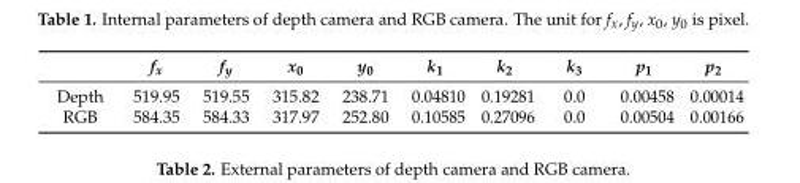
<table><thead><tr><td></td><td>f<sub>x</sub></td><td>f<sub>y</sub></td><td>x<sub>0</sub></td><td>y<sub>0</sub></td><td>k<sub>1</sub></td><td>k<sub>2</sub></td><td>k<sub>3</sub></td><td>p<sub>1</sub></td><td>p<sub>2</sub></td></tr></thead><tbody><tr><td>Depth</td><td>519.95</td><td>519.55</td><td>315.82</td><td>238.71</td><td>0.04810</td><td>0.19281</td><td>0.0</td><td>0.00458</td><td>0.00014</td></tr><tr><td>RGB</td><td>584.35</td><td>584.33</td><td>317.97</td><td>252.80</td><td>0.10585</td><td>0.27096</td><td>0.0</td><td>0.00504</td><td>0.00166</td></tr></tbody></table>